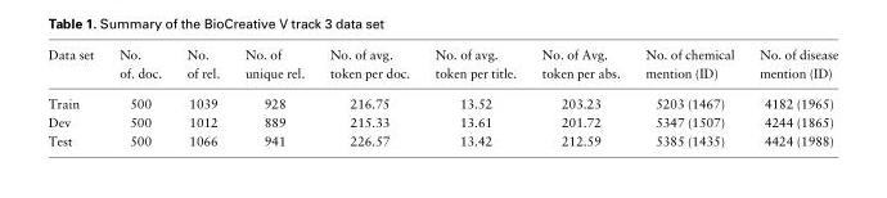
<table><thead><tr><td>Data set</td><td>No. of. doc.</td><td>No. of rel.</td><td>No. of unique rel.</td><td>No. of avg. token per doc.</td><td>No. of avg. token per title.</td><td>No. of Avg. token per abs.</td><td>No. of chemical mention (ID)</td><td>No. of disease mention (ID)</td></tr></thead><tbody><tr><td>Train</td><td>500</td><td>1039</td><td>928</td><td>216.75</td><td>13.52</td><td>203.23</td><td>5203 (1467)</td><td>4182 (1965)</td></tr><tr><td>Dev</td><td>500</td><td>1012</td><td>889</td><td>215.33</td><td>13.61</td><td>201.72</td><td>5347 (1507)</td><td>4244 (1865)</td></tr><tr><td>Test</td><td>500</td><td>1066</td><td>941</td><td>226.57</td><td>13.42</td><td>212.59</td><td>5385 (1435)</td><td>4424 (1988)</td></tr></tbody></table>